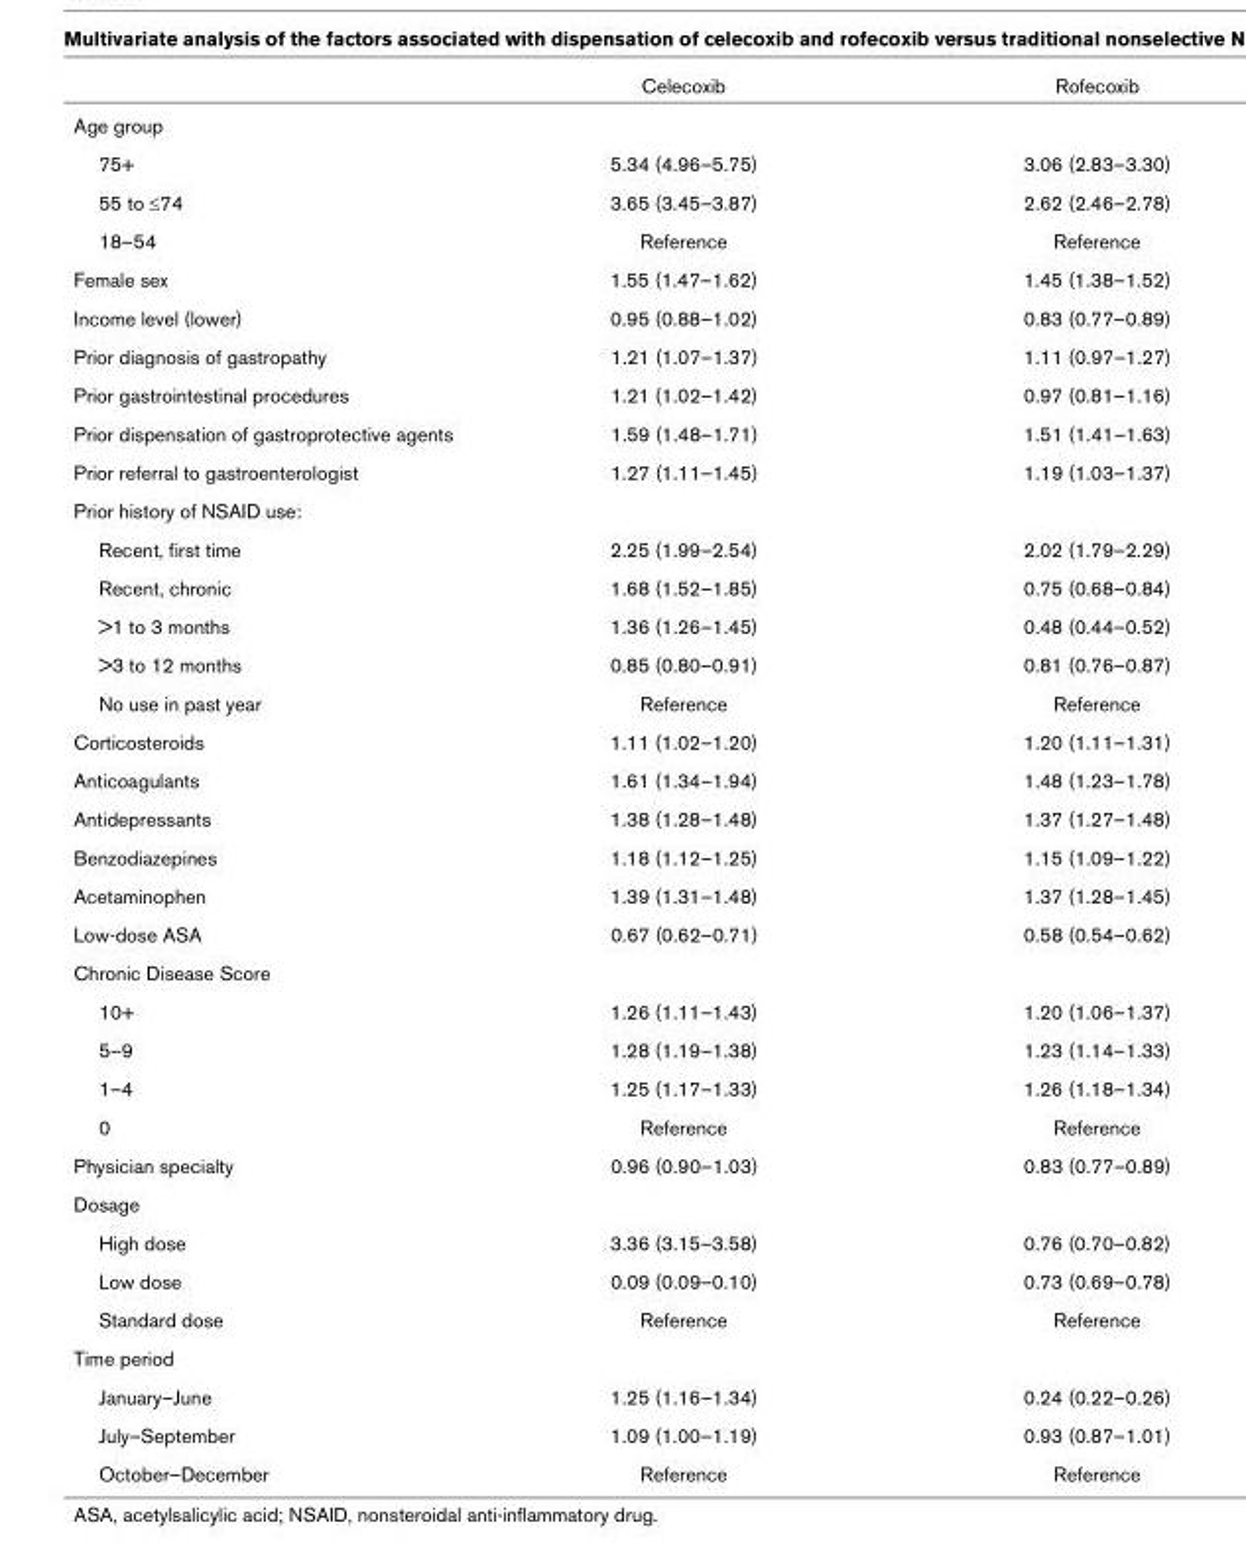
<table><thead><tr><td></td><td>Celecoxib</td><td>Rofecoxib</td></tr></thead><tbody><tr><td colspan="3">Age group</td></tr><tr><td>75+</td><td>5.34 (4.96–5.75)</td><td>3.06 (2.83–3.30)</td></tr><tr><td>55 to ≤74</td><td>3.65 (3.45–3.87)</td><td>2.62 (2.46–2.78)</td></tr><tr><td>18–54</td><td>Reference</td><td>Reference</td></tr><tr><td>Female sex</td><td>1.55 (1.47–1.62)</td><td>1.45 (1.38–1.52)</td></tr><tr><td>Income level (lower)</td><td>0.95 (0.88–1.02)</td><td>0.83 (0.77–0.89)</td></tr><tr><td>Prior diagnosis of gastropathy</td><td>1.21 (1.07–1.37)</td><td>1.11 (0.97–1.27)</td></tr><tr><td>Prior gastrointestinal procedures</td><td>1.21 (1.02–1.42)</td><td>0.97 (0.81–1.16)</td></tr><tr><td>Prior dispensation of gastroprotective agents</td><td>1.59 (1.48–1.71)</td><td>1.51 (1.41–1.63)</td></tr><tr><td>Prior referral to gastroenterologist</td><td>1.27 (1.11–1.45)</td><td>1.19 (1.03–1.37)</td></tr><tr><td colspan="3">Prior history of NSAID use:</td></tr><tr><td>Recent, first time</td><td>2.25 (1.99–2.54)</td><td>2.02 (1.79–2.29)</td></tr><tr><td>Recent, chronic</td><td>1.68 (1.52–1.85)</td><td>0.75 (0.68–0.84)</td></tr><tr><td>&gt;1 to 3 months</td><td>1.36 (1.26–1.45)</td><td>0.48 (0.44–0.52)</td></tr><tr><td>&gt;3 to 12 months</td><td>0.85 (0.80–0.91)</td><td>0.81 (0.76–0.87)</td></tr><tr><td>No use in past year</td><td>Reference</td><td>Reference</td></tr><tr><td>Corticosteroids</td><td>1.11 (1.02–1.20)</td><td>1.20 (1.11–1.31)</td></tr><tr><td>Anticoagulants</td><td>1.61 (1.34–1.94)</td><td>1.48 (1.23–1.78)</td></tr><tr><td>Antidepressants</td><td>1.38 (1.28–1.48)</td><td>1.37 (1.27–1.48)</td></tr><tr><td>Benzodiazepines</td><td>1.18 (1.12–1.25)</td><td>1.15 (1.09–1.22)</td></tr><tr><td>Acetaminophen</td><td>1.39 (1.31–1.48)</td><td>1.37 (1.28–1.45)</td></tr><tr><td>Low-dose ASA</td><td>0.67 (0.62–0.71)</td><td>0.58 (0.54–0.62)</td></tr><tr><td colspan="3">Chronic Disease Score</td></tr><tr><td>10+</td><td>1.26 (1.11–1.43)</td><td>1.20 (1.06–1.37)</td></tr><tr><td>5–9</td><td>1.28 (1.19–1.38)</td><td>1.23 (1.14–1.33)</td></tr><tr><td>1–4</td><td>1.25 (1.17–1.33)</td><td>1.26 (1.18–1.34)</td></tr><tr><td>0</td><td>Reference</td><td>Reference</td></tr><tr><td>Physician specialty</td><td>0.96 (0.90–1.03)</td><td>0.83 (0.77–0.89)</td></tr><tr><td colspan="3">Dosage</td></tr><tr><td>High dose</td><td>3.36 (3.15–3.58)</td><td>0.76 (0.70–0.82)</td></tr><tr><td>Low dose</td><td>0.09 (0.09–0.10)</td><td>0.73 (0.69–0.78)</td></tr><tr><td>Standard dose</td><td>Reference</td><td>Reference</td></tr><tr><td colspan="3">Time period</td></tr><tr><td>January–June</td><td>1.25 (1.16–1.34)</td><td>0.24 (0.22–0.26)</td></tr><tr><td>July–September</td><td>1.09 (1.00–1.19)</td><td>0.93 (0.87–1.01)</td></tr><tr><td>October–December</td><td>Reference</td><td>Reference</td></tr></tbody></table>